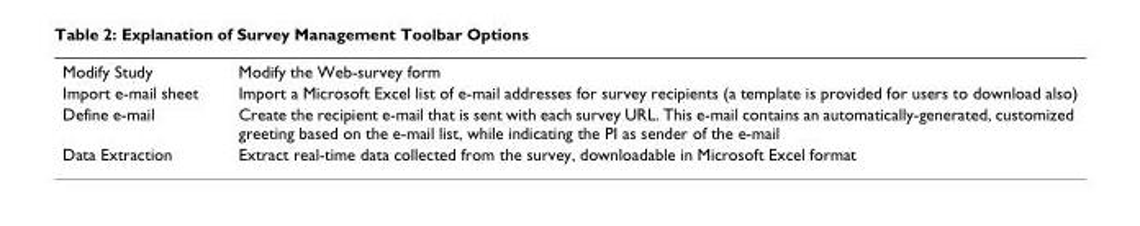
<table><tbody><tr><td>Modify Study</td><td>Modify the Web-survey form</td></tr><tr><td>Import e-mail sheet</td><td>Import a Microsoft Excel list of e-mail addresses for survey recipients (a template is provided for users to download also)</td></tr><tr><td>Define e-mail</td><td>Create the recipient e-mail that is sent with each survey URL. This e-mail contains an automatically-generated, customized greeting based on the e-mail list, while indicating the PI as sender of the e-mail</td></tr><tr><td>Data Extraction</td><td>Extract real-time data collected from the survey, downloadable in Microsoft Excel format</td></tr></tbody></table>